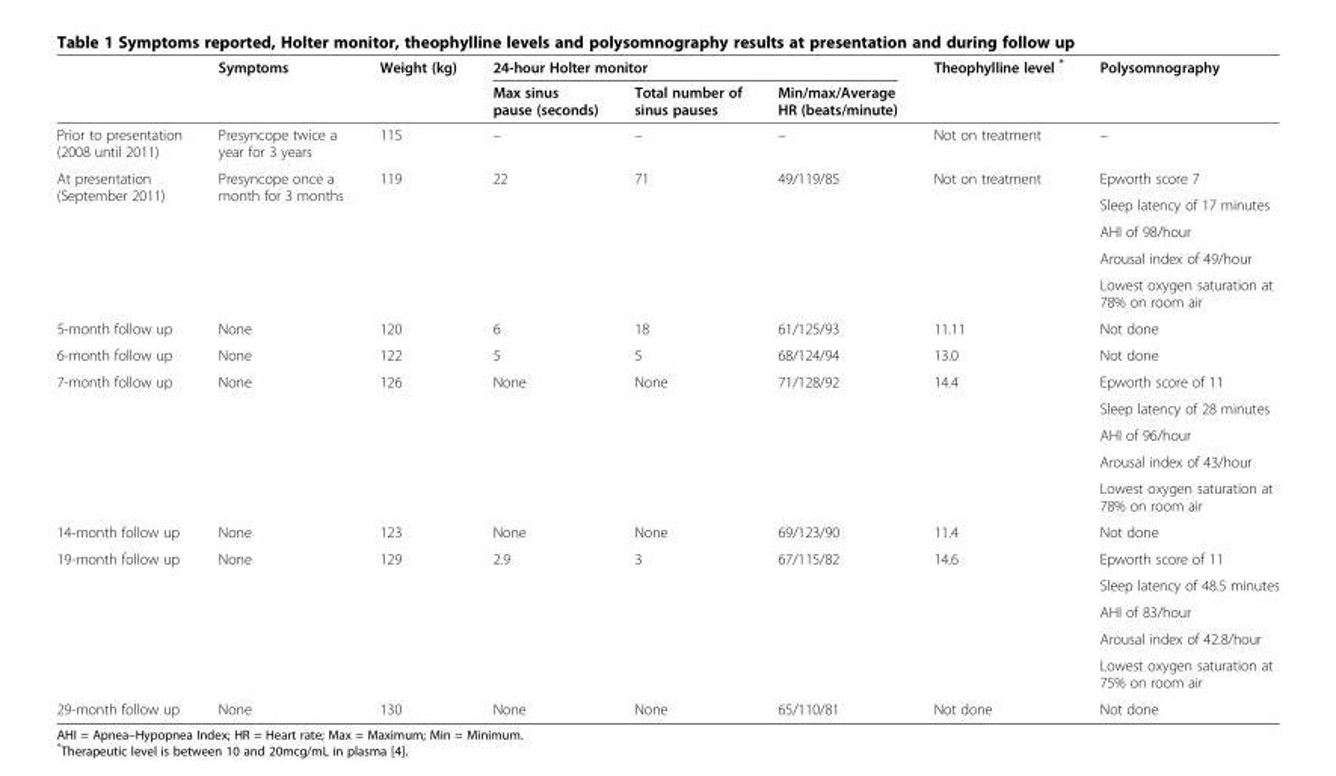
<table><thead><tr><td rowspan="2"></td><td rowspan="2">Symptoms</td><td rowspan="2">Weight (kg)</td><td colspan="3">24-hour Holter monitor</td><td rowspan="2">Theophylline level *</td><td rowspan="2">Polysomnography</td></tr><tr><td>Max sinus pause (seconds)</td><td>Total number of sinus pauses</td><td>Min/max/Average HR (beats/minute)</td></tr></thead><tbody><tr><td>Prior to presentation (2008 until 2011)</td><td>Presyncope twice a year for 3 years</td><td>115</td><td>–</td><td>–</td><td>–</td><td>Not on treatment</td><td>–</td></tr><tr><td rowspan="5">At presentation (September 2011)</td><td rowspan="5">Presyncope once a month for 3 months</td><td rowspan="5">119</td><td rowspan="5">22</td><td rowspan="5">71</td><td rowspan="5">49/119/85</td><td rowspan="5">Not on treatment</td><td>Epworth score 7</td></tr><tr><td>Sleep latency of 17 minutes</td></tr><tr><td>AHI of 98/hour</td></tr><tr><td>Arousal index of 49/hour</td></tr><tr><td>Lowest oxygen saturation at 78% on room air</td></tr><tr><td>5-month follow up</td><td>None</td><td>120</td><td>6</td><td>18</td><td>61/125/93</td><td>11.11</td><td>Not done</td></tr><tr><td>6-month follow up</td><td>None</td><td>122</td><td>5</td><td>5</td><td>68/124/94</td><td>13.0</td><td>Not done</td></tr><tr><td rowspan="5">7-month follow up</td><td rowspan="5">None</td><td rowspan="5">126</td><td rowspan="5">None</td><td rowspan="5">None</td><td rowspan="5">71/128/92</td><td rowspan="5">14.4</td><td>Epworth score of 11</td></tr><tr><td>Sleep latency of 28 minutes</td></tr><tr><td>AHI of 96/hour</td></tr><tr><td>Arousal index of 43/hour</td></tr><tr><td>Lowest oxygen saturation at 78% on room air</td></tr><tr><td>14-month follow up</td><td>None</td><td>123</td><td>None</td><td>None</td><td>69/123/90</td><td>11.4</td><td>Not done</td></tr><tr><td rowspan="5">19-month follow up</td><td rowspan="5">None</td><td rowspan="5">129</td><td rowspan="5">2.9</td><td rowspan="5">3</td><td rowspan="5">67/115/82</td><td rowspan="5">14.6</td><td>Epworth score of 11</td></tr><tr><td>Sleep latency of 48.5 minutes</td></tr><tr><td>AHI of 83/hour</td></tr><tr><td>Arousal index of 42.8/hour</td></tr><tr><td>Lowest oxygen saturation at 75% on room air</td></tr><tr><td>29-month follow up</td><td>None</td><td>130</td><td>None</td><td>None</td><td>65/110/81</td><td>Not done</td><td>Not done</td></tr></tbody></table>